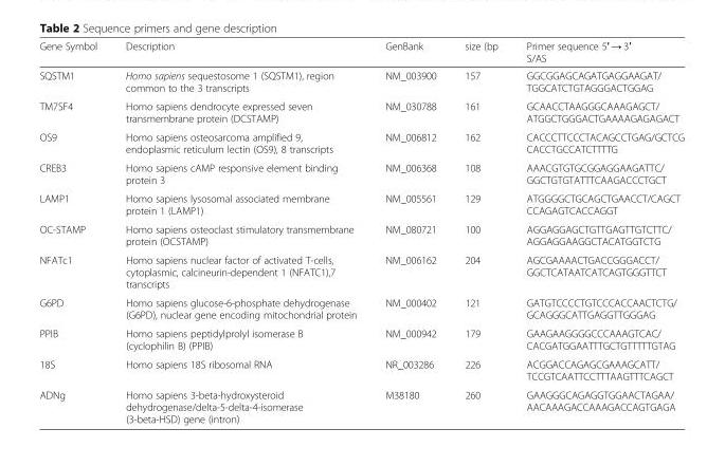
<table><thead><tr><td>Gene Symbol</td><td>Description</td><td>GenBank</td><td>size (bp</td><td>Primer sequence 5′ → 3′ S/AS</td></tr></thead><tbody><tr><td>SQSTM1</td><td>Homo sapiens sequestosome 1 (SQSTM1), region common to the 3 transcripts</td><td>NM_003900</td><td>157</td><td>GGCGGAGCAGATGAGGAAGAT/ TGGCATCTGTAGGGACTGGAG</td></tr><tr><td>TM7SF4</td><td>Homo sapiens dendrocyte expressed seven transmembrane protein (DCSTAMP)</td><td>NM_030788</td><td>161</td><td>GCAACCTAAGGGCAAAGAGCT/ ATGGCTGGGACTGAAAAGAGAGACT</td></tr><tr><td>OS9</td><td>Homo sapiens osteosarcoma amplified 9, endoplasmic reticulum lectin (OS9), 8 transcripts</td><td>NM_006812</td><td>162</td><td>CACCCTTCCCTACAGCCTGAG/GCTCG CACCTGCCATCTTTTG</td></tr><tr><td>CREB3</td><td>Homo sapiens cAMP responsive element binding protein 3</td><td>NM_006368</td><td>108</td><td>AAACGTGTGCGGAGGAAGATTC/ GGCTGTGTATTTCAAGACCCTGCT</td></tr><tr><td>LAMP1</td><td>Homo sapiens lysosomal associated membrane protein 1 (LAMP1)</td><td>NM_005561</td><td>129</td><td>ATGGGGCTGCAGCTGAACCT/CAGCT CCAGAGTCACCAGGT</td></tr><tr><td>OC-STAMP</td><td>Homo sapiens osteoclast stimulatory transmembrane protein (OCSTAMP)</td><td>NM_080721</td><td>100</td><td>AGGAGGAGCTGTTGAGTTGTCTTC/ AGGAGGAAGGCTACATGGTCTG</td></tr><tr><td>NFATc1</td><td>Homo sapiens nuclear factor of activated T-cells, cytoplasmic, calcineurin-dependent 1 (NFATC1),7 transcripts</td><td>NM_006162</td><td>204</td><td>AGCGAAAACTGACCGGGACCT/ GGCTCATAATCATCAGTGGGTTCT</td></tr><tr><td>G6PD</td><td>Homo sapiens glucose-6-phosphate dehydrogenase (G6PD), nuclear gene encoding mitochondrial protein</td><td>NM_000402</td><td>121</td><td>GATGTCCCCTGTCCCACCAACTCTG/ GCAGGGCATTGAGGTTGGGAG</td></tr><tr><td>PPIB</td><td>Homo sapiens peptidylprolyl isomerase B (cyclophilin B) (PPIB)</td><td>NM_000942</td><td>179</td><td>GAAGAAGGGGCCCAAAGTCAC/ CACGATGGAATTTGCTGTTTTTGTAG</td></tr><tr><td>18S</td><td>Homo sapiens 18S ribosomal RNA</td><td>NR_003286</td><td>226</td><td>ACGGACCAGAGCGAAAGCATT/ TCCGTCAATTCCTTTAAGTTTCAGCT</td></tr><tr><td>ADNg</td><td>Homo sapiens 3-beta-hydroxysteroid dehydrogenase/delta-5-delta-4-isomerase (3-beta-HSD) gene (intron)</td><td>M38180</td><td>260</td><td>GAAGGGCAGAGGTGGAACTAGAA/ AACAAAGACCAAAGACCAGTGAGA</td></tr></tbody></table>